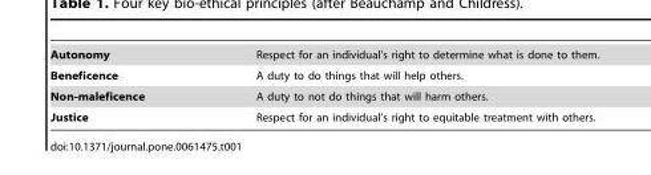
<table><tbody><tr><td>Autonomy</td><td>Respect for an individual’s right to determine what is done to them.</td></tr><tr><td>Beneficence</td><td>A duty to do things that will help others.</td></tr><tr><td>Non-maleficence</td><td>A duty to not do things that will harm others.</td></tr><tr><td>Justice</td><td>Respect for an individual’s right to equitable treatment with others.</td></tr></tbody></table>